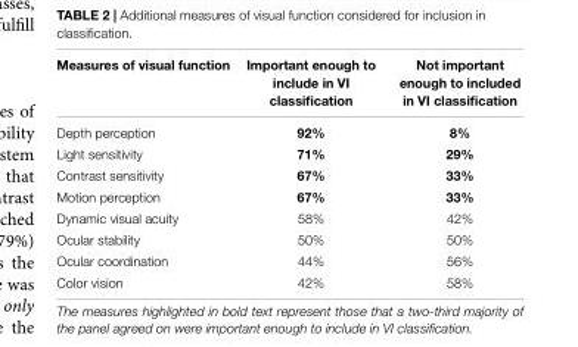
<table><thead><tr><td>Measures of visual function</td><td>Important enough to include in VI classification</td><td>Not important enough to included in VI classification</td></tr></thead><tbody><tr><td>Depth perception</td><td>92%</td><td>8%</td></tr><tr><td>Light sensitivity</td><td>71%</td><td>29%</td></tr><tr><td>Contrast sensitivity</td><td>67%</td><td>33%</td></tr><tr><td>Motion perception</td><td>67%</td><td>33%</td></tr><tr><td>Dynamic visual acuity</td><td>58%</td><td>42%</td></tr><tr><td>Ocular stability</td><td>50%</td><td>50%</td></tr><tr><td>Ocular coordination</td><td>44%</td><td>56%</td></tr><tr><td>Color vision</td><td>42%</td><td>58%</td></tr></tbody></table>